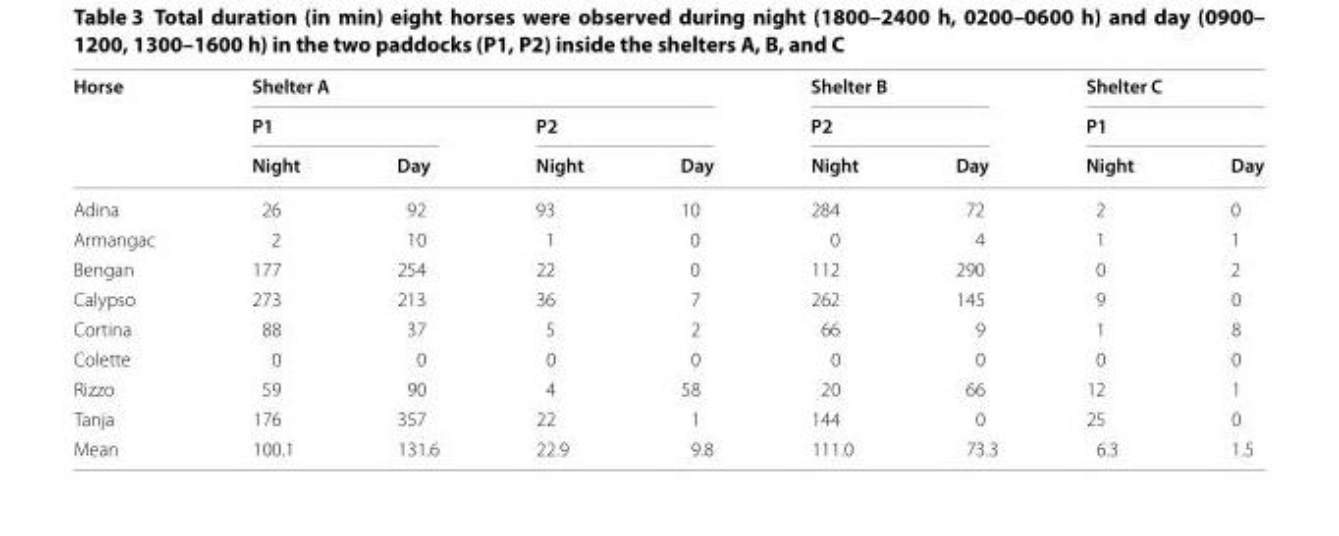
<table><thead><tr><td rowspan="3">Horse</td><td colspan="4">Shelter A</td><td rowspan="2" colspan="2">Shelter B P2</td><td rowspan="2" colspan="2">Shelter C P1</td></tr><tr><td colspan="2">P1</td><td colspan="2">P2</td></tr><tr><td>Night</td><td>Day</td><td>Night</td><td>Day</td><td>Night</td><td>Day</td><td>Night</td><td>Day</td></tr></thead><tbody><tr><td>Adina</td><td>26</td><td>92</td><td>93</td><td>10</td><td>284</td><td>72</td><td>2</td><td>0</td></tr><tr><td>Armangac</td><td>2</td><td>10</td><td>1</td><td>0</td><td>0</td><td>4</td><td>1</td><td>1</td></tr><tr><td>Bengan</td><td>177</td><td>254</td><td>22</td><td>0</td><td>112</td><td>290</td><td>0</td><td>2</td></tr><tr><td>Calypso</td><td>273</td><td>213</td><td>36</td><td>7</td><td>262</td><td>145</td><td>9</td><td>0</td></tr><tr><td>Cortina</td><td>88</td><td>37</td><td>5</td><td>2</td><td>66</td><td>9</td><td>1</td><td>8</td></tr><tr><td>Colette</td><td>0</td><td>0</td><td>0</td><td>0</td><td>0</td><td>0</td><td>0</td><td>0</td></tr><tr><td>Rizzo</td><td>59</td><td>90</td><td>4</td><td>58</td><td>20</td><td>66</td><td>12</td><td>1</td></tr><tr><td>Tanja</td><td>176</td><td>357</td><td>22</td><td>1</td><td>144</td><td>0</td><td>25</td><td>0</td></tr><tr><td>Mean</td><td>100.1</td><td>131.6</td><td>22.9</td><td>9.8</td><td>111.0</td><td>73.3</td><td>6.3</td><td>1.5</td></tr></tbody></table>